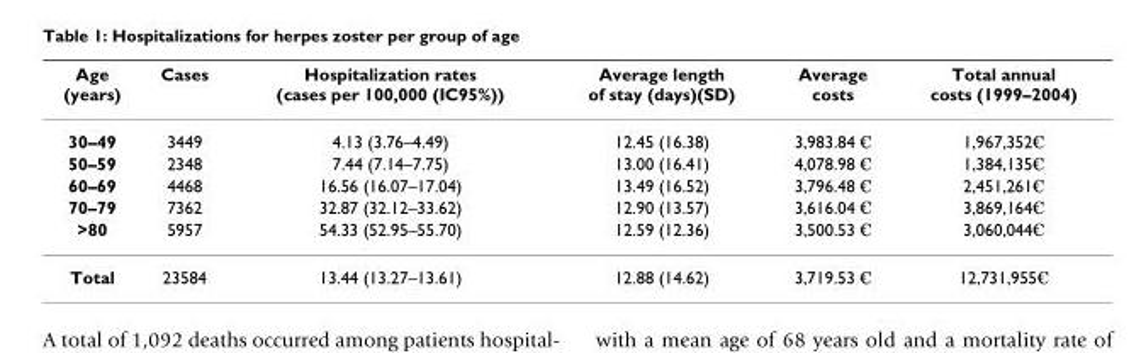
<table><thead><tr><td>Age (years)</td><td>Cases</td><td>Hospitalization rates (cases per 100,000 (IC95%))</td><td>Average length of stay (days)(SD)</td><td>Average costs</td><td>Total annual costs (1999–2004)</td></tr></thead><tbody><tr><td>30–49</td><td>3449</td><td>4.13 (3.76–4.49)</td><td>12.45 (16.38)</td><td>3,983.84 €</td><td>1,967,352€</td></tr><tr><td>50–59</td><td>2348</td><td>7.44 (7.14–7.75)</td><td>13.00 (16.41)</td><td>4,078.98 €</td><td>1,384,135€</td></tr><tr><td>60–69</td><td>4468</td><td>16.56 (16.07–17.04)</td><td>13.49 (16.52)</td><td>3,796.48 €</td><td>2,451,261€</td></tr><tr><td>70–79</td><td>7362</td><td>32.87 (32.12–33.62)</td><td>12.90 (13.57)</td><td>3,616.04 €</td><td>3,869,164€</td></tr><tr><td>&gt;80</td><td>5957</td><td>54.33 (52.95–55.70)</td><td>12.59 (12.36)</td><td>3,500.53 €</td><td>3,060,044€</td></tr><tr><td>Total</td><td>23584</td><td>13.44 (13.27–13.61)</td><td>12.88 (14.62)</td><td>3,719.53 €</td><td>12,731,955€</td></tr></tbody></table>